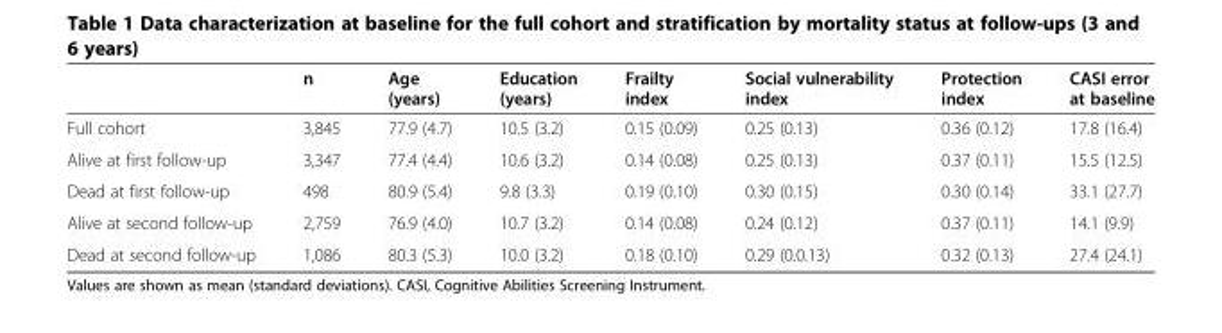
<table><thead><tr><td></td><td>n</td><td>Age (years)</td><td>Education (years)</td><td>Frailty index</td><td>Social vulnerability index</td><td>Protection index</td><td>CASI error at baseline</td></tr></thead><tbody><tr><td>Full cohort</td><td>3,845</td><td>77.9 (4.7)</td><td>10.5 (3.2)</td><td>0.15 (0.09)</td><td>0.25 (0.13)</td><td>0.36 (0.12)</td><td>17.8 (16.4)</td></tr><tr><td>Alive at first follow-up</td><td>3,347</td><td>77.4 (4.4)</td><td>10.6 (3.2)</td><td>0.14 (0.08)</td><td>0.25 (0.13)</td><td>0.37 (0.11)</td><td>15.5 (12.5)</td></tr><tr><td>Dead at first follow-up</td><td>498</td><td>80.9 (5.4)</td><td>9.8 (3.3)</td><td>0.19 (0.10)</td><td>0.30 (0.15)</td><td>0.30 (0.14)</td><td>33.1 (27.7)</td></tr><tr><td>Alive at second follow-up</td><td>2,759</td><td>76.9 (4.0)</td><td>10.7 (3.2)</td><td>0.14 (0.08)</td><td>0.24 (0.12)</td><td>0.37 (0.11)</td><td>14.1 (9.9)</td></tr><tr><td>Dead at second follow-up</td><td>1,086</td><td>80.3 (5.3)</td><td>10.0 (3.2)</td><td>0.18 (0.10)</td><td>0.29 (0.0.13)</td><td>0.32 (0.13)</td><td>27.4 (24.1)</td></tr></tbody></table>